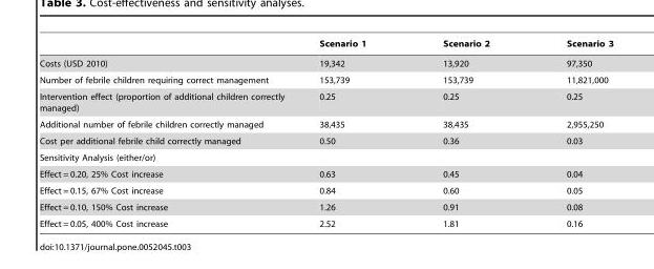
<table><thead><tr><td></td><td>Scenario 1</td><td>Scenario 2</td><td>Scenario 3</td></tr></thead><tbody><tr><td>Costs (USD 2010)</td><td>19,342</td><td>13,920</td><td>97,350</td></tr><tr><td>Number of febrile children requiring correct management</td><td>153,739</td><td>153,739</td><td>11,821,000</td></tr><tr><td>Intervention effect (proportion of additional children correctly managed)</td><td>0.25</td><td>0.25</td><td>0.25</td></tr><tr><td>Additional number of febrile children correctly managed</td><td>38,435</td><td>38,435</td><td>2,955,250</td></tr><tr><td>Cost per additional febrile child correctly managed</td><td>0.50</td><td>0.36</td><td>0.03</td></tr><tr><td colspan="4">Sensitivity Analysis (either/or)</td></tr><tr><td>Effect = 0.20, 25% Cost increase</td><td>0.63</td><td>0.45</td><td>0.04</td></tr><tr><td>Effect = 0.15, 67% Cost increase</td><td>0.84</td><td>0.60</td><td>0.05</td></tr><tr><td>Effect = 0.10, 150% Cost increase</td><td>1.26</td><td>0.91</td><td>0.08</td></tr><tr><td>Effect = 0.05, 400% Cost increase</td><td>2.52</td><td>1.81</td><td>0.16</td></tr></tbody></table>